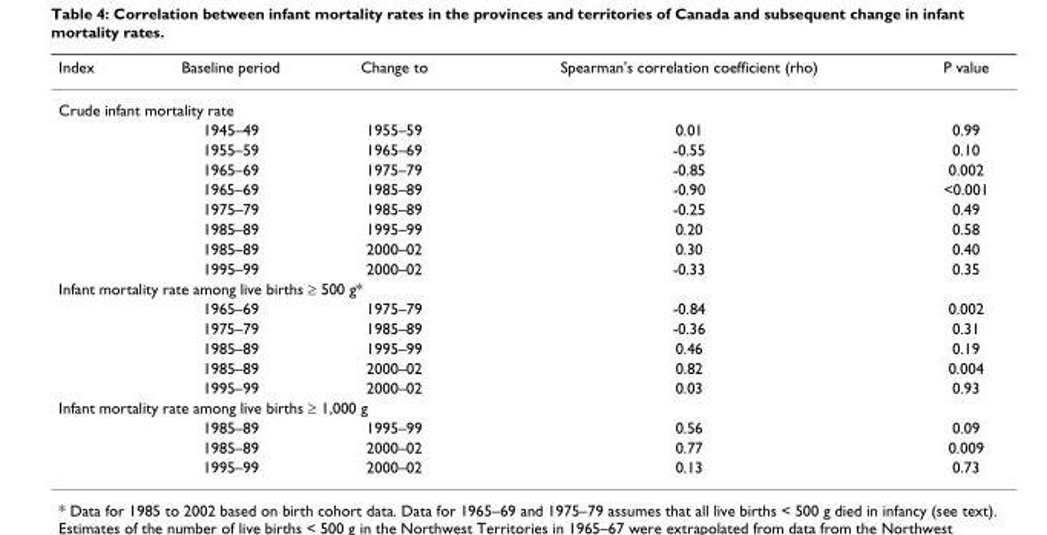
<table><thead><tr><td>Index</td><td>Baseline period</td><td>Change to</td><td>Spearman&#x27;s correlation coefficient (rho)</td><td>P value</td></tr></thead><tbody><tr><td colspan="5">Crude infant mortality rate</td></tr><tr><td></td><td>1945–49</td><td>1955–59</td><td>0.01</td><td>0.99</td></tr><tr><td></td><td>1955–59</td><td>1965–69</td><td>-0.55</td><td>0.10</td></tr><tr><td></td><td>1965–69</td><td>1975–79</td><td>-0.85</td><td>0.002</td></tr><tr><td></td><td>1965–69</td><td>1985–89</td><td>-0.90</td><td>&lt;0.001</td></tr><tr><td></td><td>1975–79</td><td>1985–89</td><td>-0.25</td><td>0.49</td></tr><tr><td></td><td>1985–89</td><td>1995–99</td><td>0.20</td><td>0.58</td></tr><tr><td></td><td>1985–89</td><td>2000–02</td><td>0.30</td><td>0.40</td></tr><tr><td></td><td>1995–99</td><td>2000–02</td><td>-0.33</td><td>0.35</td></tr><tr><td colspan="5">Infant mortality rate among live births ≥ 500 g*</td></tr><tr><td></td><td>1965–69</td><td>1975–79</td><td>-0.84</td><td>0.002</td></tr><tr><td></td><td>1975–79</td><td>1985–89</td><td>-0.36</td><td>0.31</td></tr><tr><td></td><td>1985–89</td><td>1995–99</td><td>0.46</td><td>0.19</td></tr><tr><td></td><td>1985–89</td><td>2000–02</td><td>0.82</td><td>0.004</td></tr><tr><td></td><td>1995–99</td><td>2000–02</td><td>0.03</td><td>0.93</td></tr><tr><td colspan="5">Infant mortality rate among live births ≥ 1,000 g</td></tr><tr><td></td><td>1985–89</td><td>1995–99</td><td>0.56</td><td>0.09</td></tr><tr><td></td><td>1985–89</td><td>2000–02</td><td>0.77</td><td>0.009</td></tr><tr><td></td><td>1995–99</td><td>2000–02</td><td>0.13</td><td>0.73</td></tr></tbody></table>